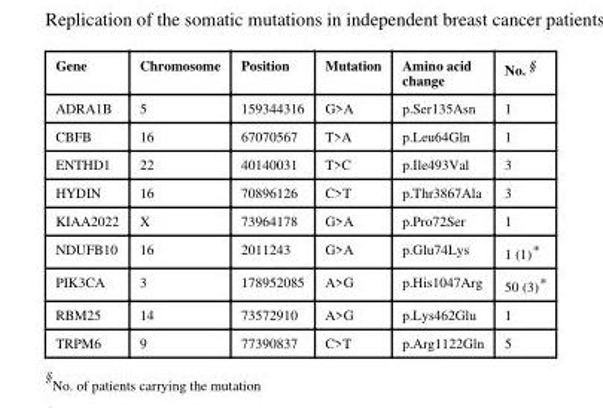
<table><thead><tr><td>Gene</td><td>Chromosome</td><td>Position</td><td>Mutation</td><td>Amino acid change</td><td>No. §</td></tr></thead><tbody><tr><td>ADRA1B</td><td>5</td><td>159344316</td><td>G&gt;A</td><td>p.Ser135Asn</td><td>1</td></tr><tr><td>CBFB</td><td>16</td><td>67070567</td><td>T&gt;A</td><td>p.Leu64Gln</td><td>1</td></tr><tr><td>ENTHD1</td><td>22</td><td>40140031</td><td>T&gt;C</td><td>p.Ile493Val</td><td>3</td></tr><tr><td>HYDIN</td><td>16</td><td>70896126</td><td>C&gt;T</td><td>p.Thr3867Ala</td><td>3</td></tr><tr><td>KIAA2022</td><td>X</td><td>73964178</td><td>G&gt;A</td><td>p.Pro72Ser</td><td>1</td></tr><tr><td>NDUFB10</td><td>16</td><td>2011243</td><td>G&gt;A</td><td>p.Glu74Lys</td><td>1 (1)*</td></tr><tr><td>PIK3CA</td><td>3</td><td>178952085</td><td>A&gt;G</td><td>p.His1047Arg</td><td>50 (3)*</td></tr><tr><td>RBM25</td><td>14</td><td>73572910</td><td>A&gt;G</td><td>p.Lys462Glu</td><td>1</td></tr><tr><td>TRPM6</td><td>9</td><td>77390837</td><td>C&gt;T</td><td>p.Arg1122Gln</td><td>5</td></tr></tbody></table>